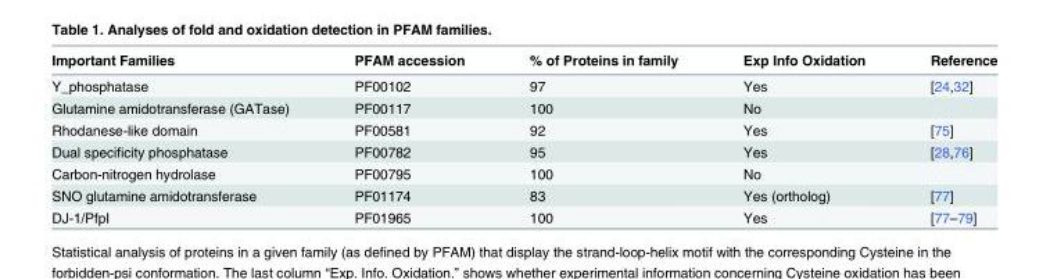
<table><thead><tr><td>Important Families</td><td>PFAM accession</td><td>% of Proteins in family</td><td>Exp Info Oxidation</td><td>Reference</td></tr></thead><tbody><tr><td>Y_phosphatase</td><td>PF00102</td><td>97</td><td>Yes</td><td>[24,32]</td></tr><tr><td>Glutamine amidotransferase (GATase)</td><td>PF00117</td><td>100</td><td>No</td><td></td></tr><tr><td>Rhodanese-like domain</td><td>PF00581</td><td>92</td><td>Yes</td><td>[75]</td></tr><tr><td>Dual specificity phosphatase</td><td>PF00782</td><td>95</td><td>Yes</td><td>[28,76]</td></tr><tr><td>Carbon-nitrogen hydrolase</td><td>PF00795</td><td>100</td><td>No</td><td></td></tr><tr><td>SNO glutamine amidotransferase</td><td>PF01174</td><td>83</td><td>Yes (ortholog)</td><td>[77]</td></tr><tr><td>DJ-1/PfpI</td><td>PF01965</td><td>100</td><td>Yes</td><td>[77–79]</td></tr></tbody></table>